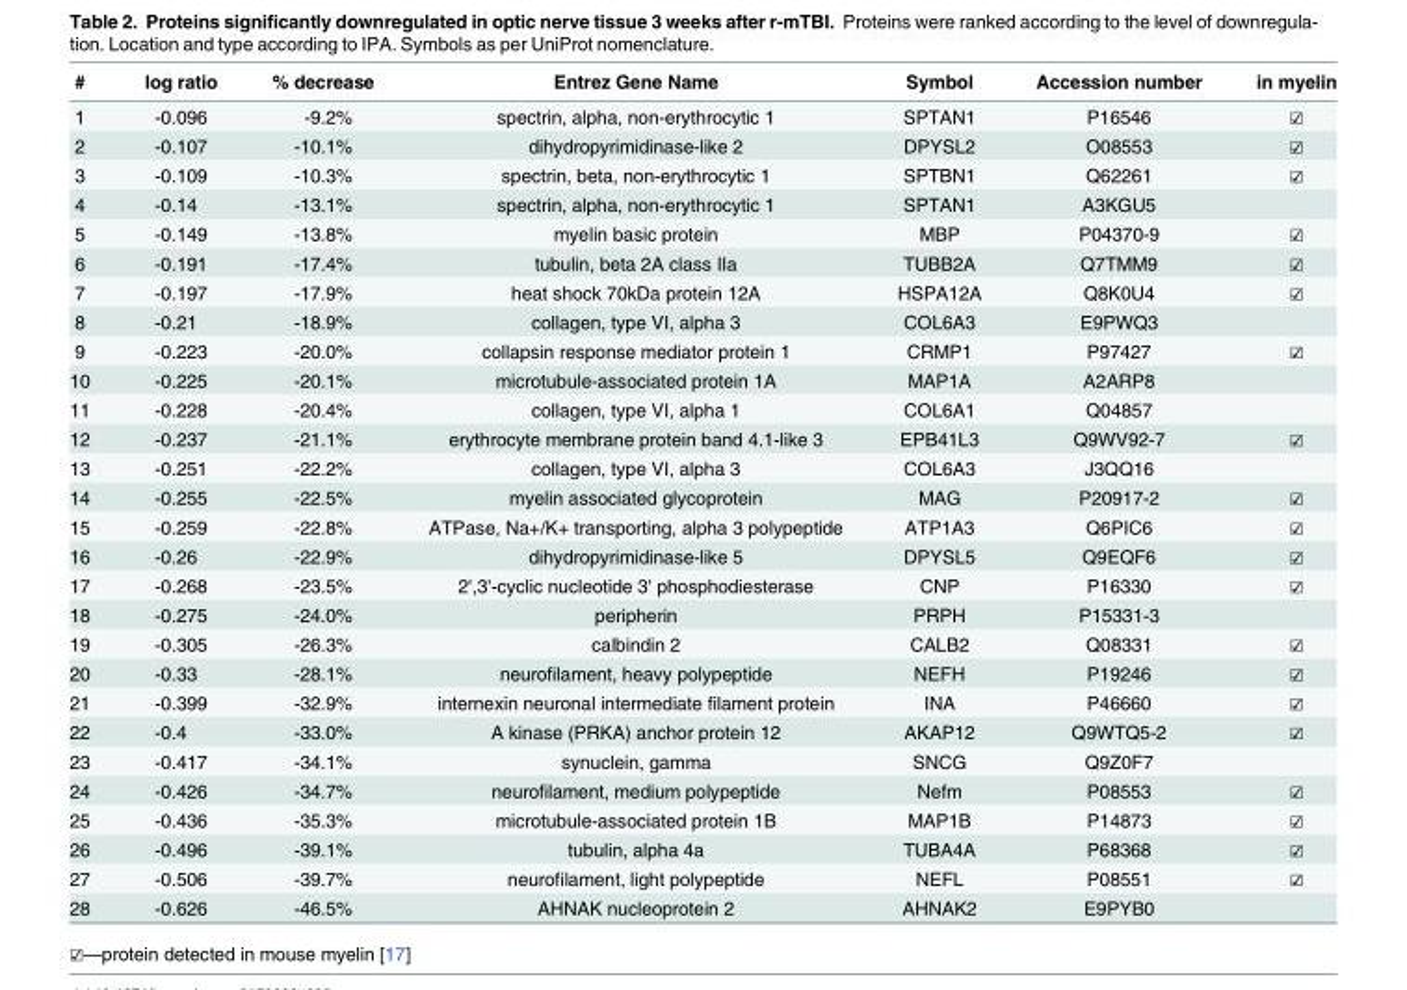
<table><thead><tr><td>#</td><td>log ratio</td><td>% decrease</td><td>Entrez Gene Name</td><td>Symbol</td><td>Accession number</td><td>in myelin</td></tr></thead><tbody><tr><td>1</td><td>-0.096</td><td>-9.2%</td><td>spectrin, alpha, non-erythrocytic 1</td><td>SPTAN1</td><td>P16546</td><td>☑</td></tr><tr><td>2</td><td>-0.107</td><td>-10.1%</td><td>dihydropyrimidinase-like 2</td><td>DPYSL2</td><td>O08553</td><td>☑</td></tr><tr><td>3</td><td>-0.109</td><td>-10.3%</td><td>spectrin, beta, non-erythrocytic 1</td><td>SPTBN1</td><td>Q62261</td><td>☑</td></tr><tr><td>4</td><td>-0.14</td><td>-13.1%</td><td>spectrin, alpha, non-erythrocytic 1</td><td>SPTAN1</td><td>A3KGU5</td><td></td></tr><tr><td>5</td><td>-0.149</td><td>-13.8%</td><td>myelin basic protein</td><td>MBP</td><td>P04370-9</td><td>☑</td></tr><tr><td>6</td><td>-0.191</td><td>-17.4%</td><td>tubulin, beta 2A class IIa</td><td>TUBB2A</td><td>Q7TMM9</td><td>☑</td></tr><tr><td>7</td><td>-0.197</td><td>-17.9%</td><td>heat shock 70kDa protein 12A</td><td>HSPA12A</td><td>Q8K0U4</td><td>☑</td></tr><tr><td>8</td><td>-0.21</td><td>-18.9%</td><td>collagen, type VI, alpha 3</td><td>COL6A3</td><td>E9PWQ3</td><td></td></tr><tr><td>9</td><td>-0.223</td><td>-20.0%</td><td>collapsin response mediator protein 1</td><td>CRMP1</td><td>P97427</td><td>☑</td></tr><tr><td>10</td><td>-0.225</td><td>-20.1%</td><td>microtubule-associated protein 1A</td><td>MAP1A</td><td>A2ARP8</td><td></td></tr><tr><td>11</td><td>-0.228</td><td>-20.4%</td><td>collagen, type VI, alpha 1</td><td>COL6A1</td><td>Q04857</td><td></td></tr><tr><td>12</td><td>-0.237</td><td>-21.1%</td><td>erythrocyte membrane protein band 4.1-like 3</td><td>EPB41L3</td><td>Q9WV92-7</td><td>☑</td></tr><tr><td>13</td><td>-0.251</td><td>-22.2%</td><td>collagen, type VI, alpha 3</td><td>COL6A3</td><td>J3QQ16</td><td></td></tr><tr><td>14</td><td>-0.255</td><td>-22.5%</td><td>myelin associated glycoprotein</td><td>MAG</td><td>P20917-2</td><td>☑</td></tr><tr><td>15</td><td>-0.259</td><td>-22.8%</td><td>ATPase, Na+/K+ transporting, alpha 3 polypeptide</td><td>ATP1A3</td><td>Q6PIC6</td><td>☑</td></tr><tr><td>16</td><td>-0.26</td><td>-22.9%</td><td>dihydropyrimidinase-like 5</td><td>DPYSL5</td><td>Q9EQF6</td><td>☑</td></tr><tr><td>17</td><td>-0.268</td><td>-23.5%</td><td>2&#x27;,3&#x27;-cyclic nucleotide 3&#x27; phosphodiesterase</td><td>CNP</td><td>P16330</td><td>☑</td></tr><tr><td>18</td><td>-0.275</td><td>-24.0%</td><td>peripherin</td><td>PRPH</td><td>P15331-3</td><td></td></tr><tr><td>19</td><td>-0.305</td><td>-26.3%</td><td>calbindin 2</td><td>CALB2</td><td>Q08331</td><td>☑</td></tr><tr><td>20</td><td>-0.33</td><td>-28.1%</td><td>neurofilament, heavy polypeptide</td><td>NEFH</td><td>P19246</td><td>☑</td></tr><tr><td>21</td><td>-0.399</td><td>-32.9%</td><td>internexin neuronal intermediate filament protein</td><td>INA</td><td>P46660</td><td>☑</td></tr><tr><td>22</td><td>-0.4</td><td>-33.0%</td><td>A kinase (PRKA) anchor protein 12</td><td>AKAP12</td><td>Q9WTQ5-2</td><td>☑</td></tr><tr><td>23</td><td>-0.417</td><td>-34.1%</td><td>synuclein, gamma</td><td>SNCG</td><td>Q9Z0F7</td><td></td></tr><tr><td>24</td><td>-0.426</td><td>-34.7%</td><td>neurofilament, medium polypeptide</td><td>Nefm</td><td>P08553</td><td>☑</td></tr><tr><td>25</td><td>-0.436</td><td>-35.3%</td><td>microtubule-associated protein 1B</td><td>MAP1B</td><td>P14873</td><td>☑</td></tr><tr><td>26</td><td>-0.496</td><td>-39.1%</td><td>tubulin, alpha 4a</td><td>TUBA4A</td><td>P68368</td><td>☑</td></tr><tr><td>27</td><td>-0.506</td><td>-39.7%</td><td>neurofilament, light polypeptide</td><td>NEFL</td><td>P08551</td><td>☑</td></tr><tr><td>28</td><td>-0.626</td><td>-46.5%</td><td>AHNAK nucleoprotein 2</td><td>AHNAK2</td><td>E9PYB0</td><td></td></tr></tbody></table>